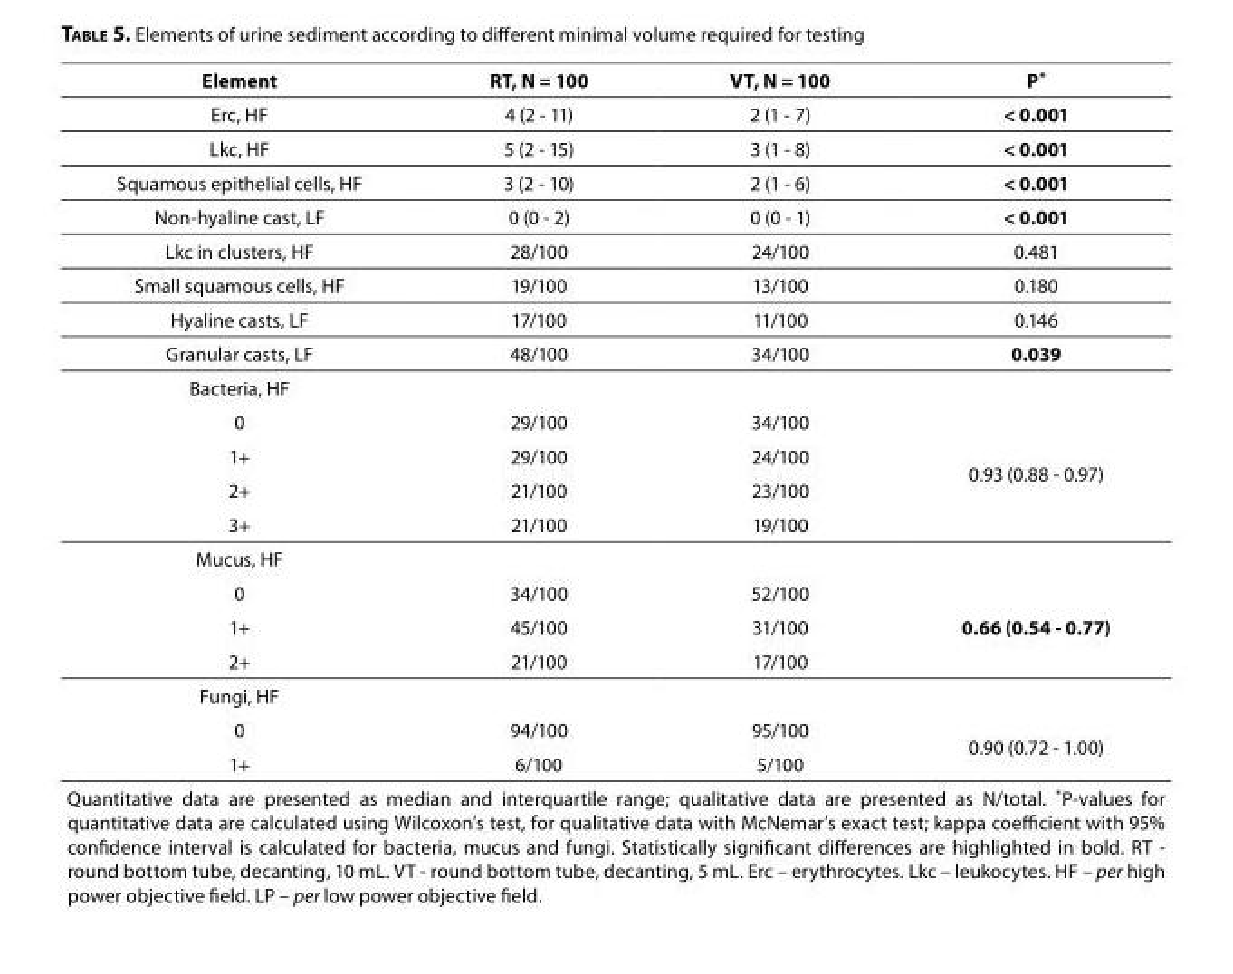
<table><thead><tr><td>Element</td><td>RT, N = 100</td><td>VT, N = 100</td><td>P*</td></tr></thead><tbody><tr><td>Erc, HF</td><td>4 (2 - 11)</td><td>2 (1 - 7)</td><td>&lt; 0.001</td></tr><tr><td>Lkc, HF</td><td>5 (2 - 15)</td><td>3 (1 - 8)</td><td>&lt; 0.001</td></tr><tr><td>Squamous epithelial cells, HF</td><td>3 (2 - 10)</td><td>2 (1 - 6)</td><td>&lt; 0.001</td></tr><tr><td>Non-hyaline cast, LF</td><td>0 (0 - 2)</td><td>0 (0 - 1)</td><td>&lt; 0.001</td></tr><tr><td>Lkc in clusters, HF</td><td>28/100</td><td>24/100</td><td>0.481</td></tr><tr><td>Small squamous cells, HF</td><td>19/100</td><td>13/100</td><td>0.180</td></tr><tr><td>Hyaline casts, LF</td><td>17/100</td><td>11/100</td><td>0.146</td></tr><tr><td>Granular casts, LF</td><td>48/100</td><td>34/100</td><td>0.039</td></tr><tr><td colspan="4">Bacteria, HF</td></tr><tr><td>0</td><td>29/100</td><td>34/100</td><td rowspan="4">0.93 (0.88 - 0.97)</td></tr><tr><td>1+</td><td>29/100</td><td>24/100</td></tr><tr><td>2+</td><td>21/100</td><td>23/100</td></tr><tr><td>3+</td><td>21/100</td><td>19/100</td></tr><tr><td colspan="4">Mucus, HF</td></tr><tr><td>0</td><td>34/100</td><td>52/100</td><td rowspan="3">0.66 (0.54 - 0.77)</td></tr><tr><td>1+</td><td>45/100</td><td>31/100</td></tr><tr><td>2+</td><td>21/100</td><td>17/100</td></tr><tr><td colspan="4">Fungi, HF</td></tr><tr><td>0</td><td>94/100</td><td>95/100</td><td rowspan="2">0.90 (0.72 - 1.00)</td></tr><tr><td>1+</td><td>6/100</td><td>5/100</td></tr><tr><td colspan="4">Quantitative data are presented as median and interquartile range; qualitative data are presented as N/total. *P-values for quantitative data are calculated using Wilcoxon’s test, for qualitative data with McNemar’s exact test; kappa coefficient with 95% confidence interval is calculated for bacteria, mucus and fungi. Statistically significant differences are highlighted in bold. RT - round bottom tube, decanting, 10 mL. VT - round bottom tube, decanting, 5 mL. Erc – erythrocytes. Lkc – leukocytes. HF – per high power objective field. LP – per low power objective field.</td></tr></tbody></table>